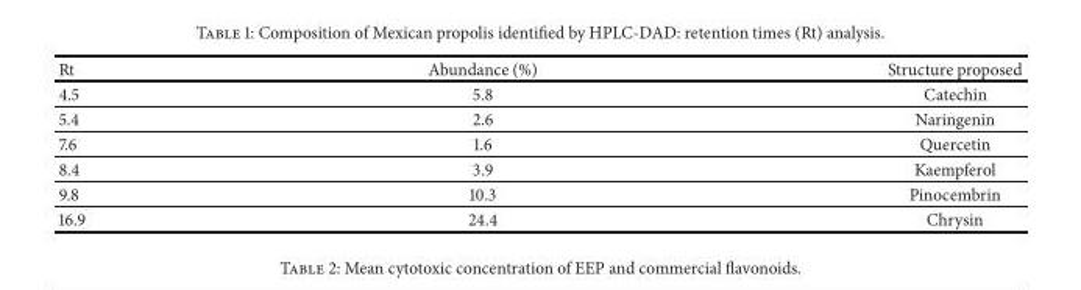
<table><thead><tr><td>Rt</td><td>Abundance (%)</td><td>Structure proposed</td></tr></thead><tbody><tr><td>4.5</td><td>5.8</td><td>Catechin</td></tr><tr><td>5.4</td><td>2.6</td><td>Naringenin</td></tr><tr><td>7.6</td><td>1.6</td><td>Quercetin</td></tr><tr><td>8.4</td><td>3.9</td><td>Kaempferol</td></tr><tr><td>9.8</td><td>10.3</td><td>Pinocembrin</td></tr><tr><td>16.9</td><td>24.4</td><td>Chrysin</td></tr></tbody></table>